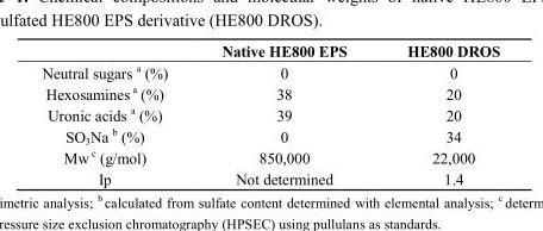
<table><thead><tr><td></td><td>Native HE800 EPS</td><td>HE800 DROS</td></tr></thead><tbody><tr><td>Neutral sugars <sup>a</sup> (%)</td><td>0</td><td>0</td></tr><tr><td>Hexosamines <sup>a</sup> (%)</td><td>38</td><td>20</td></tr><tr><td>Uronic acids <sup>a</sup> (%)</td><td>39</td><td>20</td></tr><tr><td>SO<sub>3</sub>Na <sup>b</sup> (%)</td><td>0</td><td>34</td></tr><tr><td>Mw <sup>c</sup> (g/mol)</td><td>850,000</td><td>22,000</td></tr><tr><td>Ip</td><td>Not determined</td><td>1.4</td></tr></tbody></table>